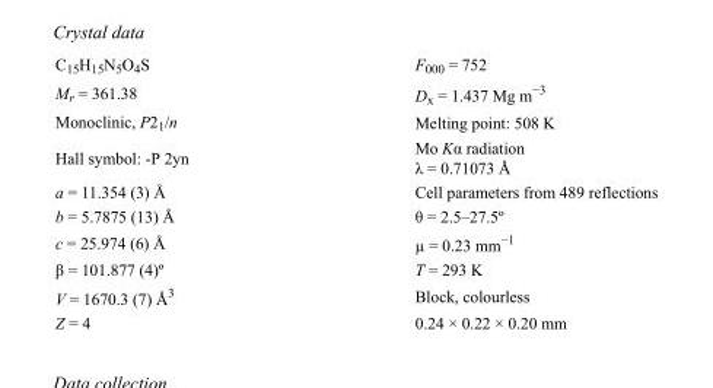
<table><tbody><tr><td>C<sub>15</sub>H<sub>15</sub>N<sub>5</sub>O<sub>4</sub>S</td><td>F000 = 752</td></tr><tr><td>M<sub>r</sub> = 361.38</td><td>D<sub>x</sub> = 1.437 Mg m<sup>−3</sup></td></tr><tr><td>Monoclinic, P2<sub>1</sub>/n</td><td>Melting point: 508 K</td></tr><tr><td>Hall symbol: -P 2yn</td><td>Mo Kα radiation λ = 0.71073 Å</td></tr><tr><td>a = 11.354 (3) Å</td><td>Cell parameters from 489 reflections</td></tr><tr><td>b = 5.7875 (13) Å</td><td>θ = 2.5–27.5º</td></tr><tr><td>c = 25.974 (6) Å</td><td>µ = 0.23 mm<sup>−1</sup></td></tr><tr><td>β = 101.877 (4)º</td><td>T = 293 K</td></tr><tr><td>V = 1670.3 (7) Å<sup>3</sup></td><td>Block, colourless</td></tr><tr><td>Z = 4</td><td>0.24 × 0.22 × 0.20 mm</td></tr></tbody></table>